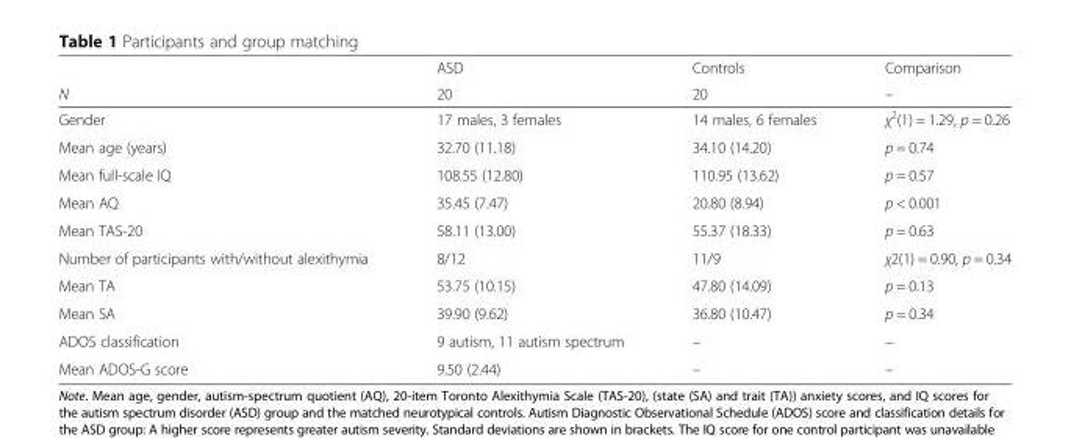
<table><thead><tr><td rowspan="2">N</td><td rowspan="2">ASD 20</td><td rowspan="2">Controls 20</td><td rowspan="2">Comparison –</td></tr><tr></tr></thead><tbody><tr><td>Gender</td><td>17 males, 3 females</td><td>14 males, 6 females</td><td>χ<sup>2</sup>(1) = 1.29, p = 0.26</td></tr><tr><td>Mean age (years)</td><td>32.70 (11.18)</td><td>34.10 (14.20)</td><td>p = 0.74</td></tr><tr><td>Mean full-scale IQ</td><td>108.55 (12.80)</td><td>110.95 (13.62)</td><td>p = 0.57</td></tr><tr><td>Mean AQ</td><td>35.45 (7.47)</td><td>20.80 (8.94)</td><td>p &lt; 0.001</td></tr><tr><td>Mean TAS-20</td><td>58.11 (13.00)</td><td>55.37 (18.33)</td><td>p = 0.63</td></tr><tr><td>Number of participants with/without alexithymia</td><td>8/12</td><td>11/9</td><td>χ2(1) = 0.90, p = 0.34</td></tr><tr><td>Mean TA</td><td>53.75 (10.15)</td><td>47.80 (14.09)</td><td>p = 0.13</td></tr><tr><td>Mean SA</td><td>39.90 (9.62)</td><td>36.80 (10.47)</td><td>p = 0.34</td></tr><tr><td>ADOS classification</td><td>9 autism, 11 autism spectrum</td><td>–</td><td>–</td></tr><tr><td>Mean ADOS-G score</td><td>9.50 (2.44)</td><td>–</td><td>–</td></tr></tbody></table>